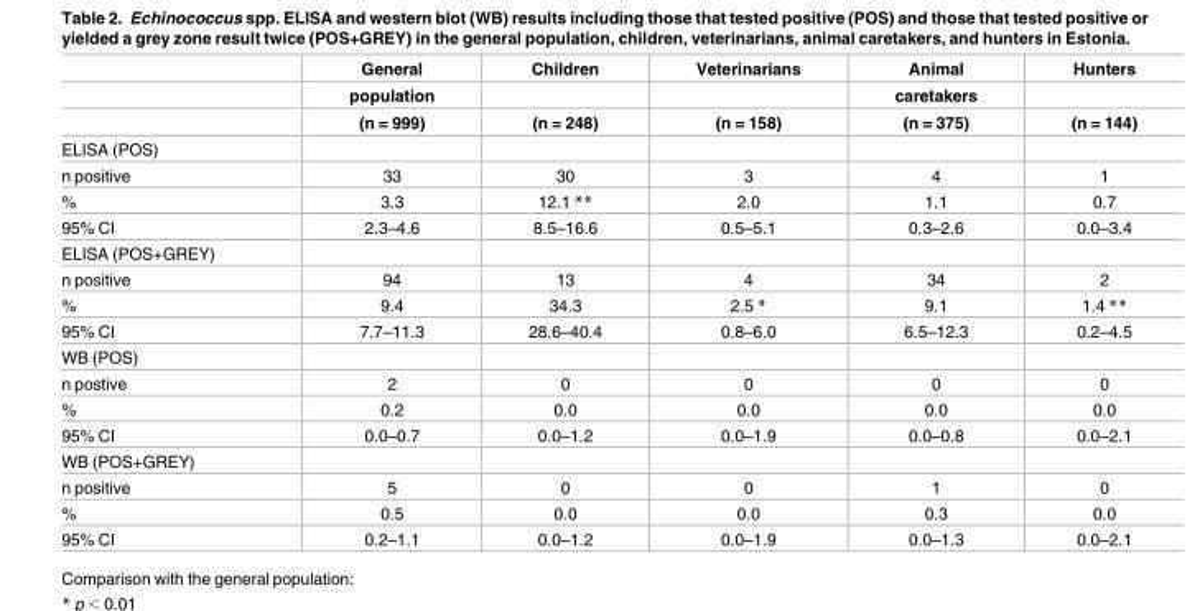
<table><thead><tr><td rowspan="3"></td><td rowspan="3">General population (n = 999)</td><td rowspan="3">Children (n = 248)</td><td rowspan="3">Veterinarians (n = 158)</td><td rowspan="3">Animal caretakers (n = 375)</td><td rowspan="3">Hunters (n = 144)</td></tr><tr></tr><tr></tr></thead><tbody><tr><td colspan="6">ELISA (POS)</td></tr><tr><td>n positive</td><td>33</td><td>30</td><td>3</td><td>4</td><td>1</td></tr><tr><td>%</td><td>3.3</td><td>12.1 **</td><td>2.0</td><td>1.1</td><td>0.7</td></tr><tr><td>95% CI</td><td>2.3–4.6</td><td>8.5–16.6</td><td>0.5–5.1</td><td>0.3–2.6</td><td>0.0–3.4</td></tr><tr><td colspan="6">ELISA (POS+GREY)</td></tr><tr><td>n positive</td><td>94</td><td>13</td><td>4</td><td>34</td><td>2</td></tr><tr><td>%</td><td>9.4</td><td>34.3</td><td>2.5 *</td><td>9.1</td><td>1.4 **</td></tr><tr><td>95% CI</td><td>7.7–11.3</td><td>28.6–40.4</td><td>0.8–6.0</td><td>6.5–12.3</td><td>0.2–4.5</td></tr><tr><td colspan="6">WB (POS)</td></tr><tr><td>n postive</td><td>2</td><td>0</td><td>0</td><td>0</td><td>0</td></tr><tr><td>%</td><td>0.2</td><td>0.0</td><td>0.0</td><td>0.0</td><td>0.0</td></tr><tr><td>95% CI</td><td>0.0–0.7</td><td>0.0–1.2</td><td>0.0–1.9</td><td>0.0–0.8</td><td>0.0–2.1</td></tr><tr><td colspan="6">WB (POS+GREY)</td></tr><tr><td>n positive</td><td>5</td><td>0</td><td>0</td><td>1</td><td>0</td></tr><tr><td>%</td><td>0.5</td><td>0.0</td><td>0.0</td><td>0.3</td><td>0.0</td></tr><tr><td>95% CI</td><td>0.2–1.1</td><td>0.0–1.2</td><td>0.0–1.9</td><td>0.0–1.3</td><td>0.0–2.1</td></tr></tbody></table>